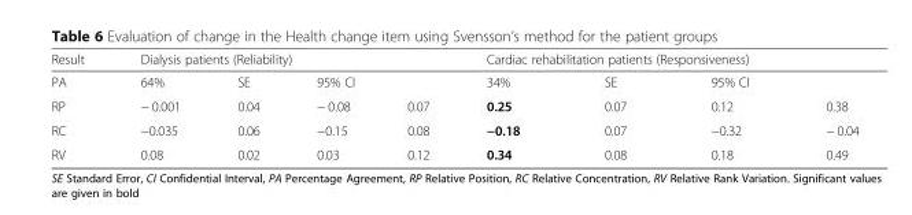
<table><thead><tr><td rowspan="3">Result PA RP</td><td colspan="4">Dialysis patients (Reliability)</td><td colspan="4">Cardiac rehabilitation patients (Responsiveness)</td></tr><tr><td rowspan="2">64% − 0.001</td><td rowspan="2">SE 0.04</td><td colspan="2">95% CI</td><td rowspan="2">34% 0.25</td><td rowspan="2">SE 0.07</td><td colspan="2">95% CI</td></tr><tr><td>− 0.08</td><td>0.07</td><td>0.12</td><td>0.38</td></tr></thead><tbody><tr><td>RC</td><td>−0.035</td><td>0.06</td><td>−0.15</td><td>0.08</td><td>−0.18</td><td>0.07</td><td>−0.32</td><td>− 0.04</td></tr><tr><td>RV</td><td>0.08</td><td>0.02</td><td>0.03</td><td>0.12</td><td>0.34</td><td>0.08</td><td>0.18</td><td>0.49</td></tr></tbody></table>